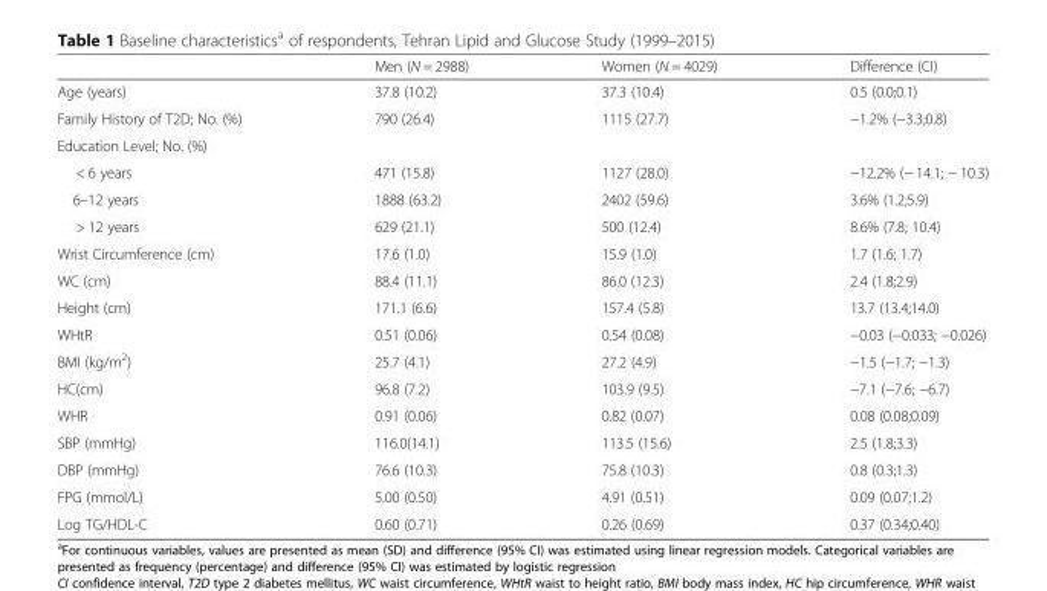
<table><thead><tr><td></td><td>Men (N = 2988)</td><td>Women (N = 4029)</td><td>Difference (CI)</td></tr></thead><tbody><tr><td>Age (years)</td><td>37.8 (10.2)</td><td>37.3 (10.4)</td><td>0.5 (0.0;0.1)</td></tr><tr><td>Family History of T2D; No. (%)</td><td>790 (26.4)</td><td>1115 (27.7)</td><td>−1.2% (−3.3;0.8)</td></tr><tr><td colspan="4">Education Level; No. (%)</td></tr><tr><td>&lt; 6 years</td><td>471 (15.8)</td><td>1127 (28.0)</td><td>−12.2% (− 14.1; − 10.3)</td></tr><tr><td>6–12 years</td><td>1888 (63.2)</td><td>2402 (59.6)</td><td>3.6% (1.2;5.9)</td></tr><tr><td>&gt; 12 years</td><td>629 (21.1)</td><td>500 (12.4)</td><td>8.6% (7.8; 10.4)</td></tr><tr><td>Wrist Circumference (cm)</td><td>17.6 (1.0)</td><td>15.9 (1.0)</td><td>1.7 (1.6; 1.7)</td></tr><tr><td>WC (cm)</td><td>88.4 (11.1)</td><td>86.0 (12.3)</td><td>2.4 (1.8;2.9)</td></tr><tr><td>Height (cm)</td><td>171.1 (6.6)</td><td>157.4 (5.8)</td><td>13.7 (13.4;14.0)</td></tr><tr><td>WHtR</td><td>0.51 (0.06)</td><td>0.54 (0.08)</td><td>−0.03 (−0.033; −0.026)</td></tr><tr><td>BMI (kg/m<sup>2</sup>)</td><td>25.7 (4.1)</td><td>27.2 (4.9)</td><td>−1.5 (−1.7; −1.3)</td></tr><tr><td>HC(cm)</td><td>96.8 (7.2)</td><td>103.9 (9.5)</td><td>−7.1 (−7.6; −6.7)</td></tr><tr><td>WHR</td><td>0.91 (0.06)</td><td>0.82 (0.07)</td><td>0.08 (0.08;0.09)</td></tr><tr><td>SBP (mmHg)</td><td>116.0(14.1)</td><td>113.5 (15.6)</td><td>2.5 (1.8;3.3)</td></tr><tr><td>DBP (mmHg)</td><td>76.6 (10.3)</td><td>75.8 (10.3)</td><td>0.8 (0.3;1.3)</td></tr><tr><td>FPG (mmol/L)</td><td>5.00 (0.50)</td><td>4.91 (0.51)</td><td>0.09 (0.07;1.2)</td></tr><tr><td>Log TG/HDL-C</td><td>0.60 (0.71)</td><td>0.26 (0.69)</td><td>0.37 (0.34;0.40)</td></tr></tbody></table>